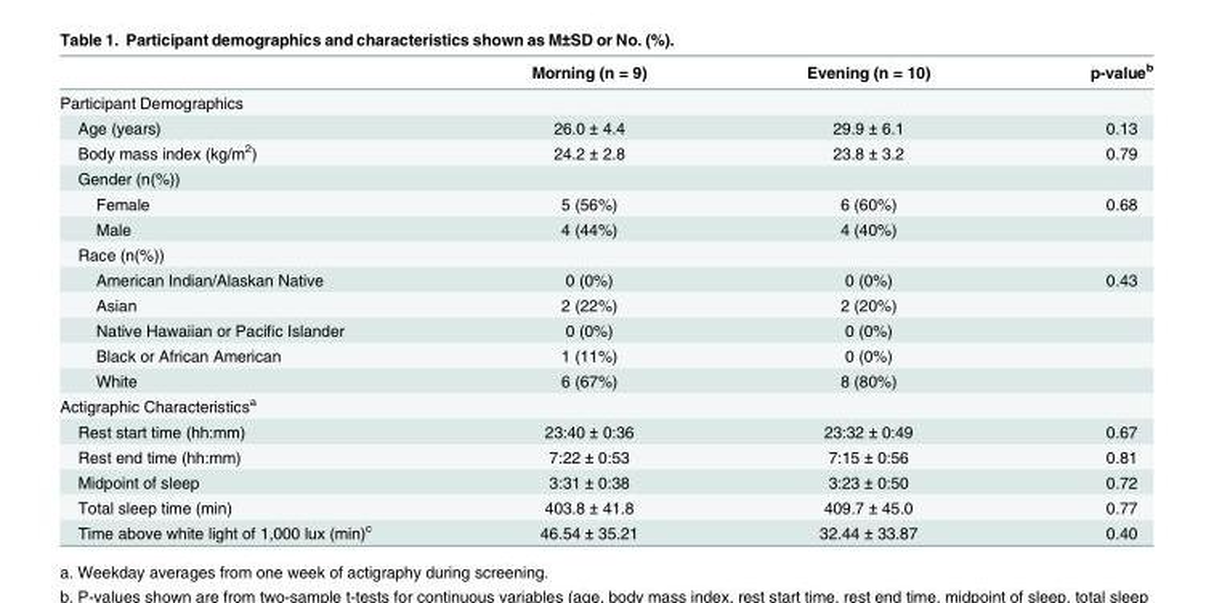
<table><thead><tr><td></td><td>Morning (n = 9)</td><td>Evening (n = 10)</td><td>p-value<sup>b</sup></td></tr></thead><tbody><tr><td colspan="4">Participant Demographics</td></tr><tr><td>Age (years)</td><td>26.0 ± 4.4</td><td>29.9 ± 6.1</td><td>0.13</td></tr><tr><td>Body mass index (kg/m<sup>2</sup>)</td><td>24.2 ± 2.8</td><td>23.8 ± 3.2</td><td>0.79</td></tr><tr><td colspan="4">Gender (n(%))</td></tr><tr><td>Female</td><td>5 (56%)</td><td>6 (60%)</td><td>0.68</td></tr><tr><td>Male</td><td>4 (44%)</td><td>4 (40%)</td><td></td></tr><tr><td colspan="4">Race (n(%))</td></tr><tr><td>American Indian/Alaskan Native</td><td>0 (0%)</td><td>0 (0%)</td><td>0.43</td></tr><tr><td>Asian</td><td>2 (22%)</td><td>2 (20%)</td><td></td></tr><tr><td>Native Hawaiian or Pacific Islander</td><td>0 (0%)</td><td>0 (0%)</td><td></td></tr><tr><td>Black or African American</td><td>1 (11%)</td><td>0 (0%)</td><td></td></tr><tr><td>White</td><td>6 (67%)</td><td>8 (80%)</td><td></td></tr><tr><td colspan="4">Actigraphic Characteristics<sup>a</sup></td></tr><tr><td>Rest start time (hh:mm)</td><td>23:40 ± 0:36</td><td>23:32 ± 0:49</td><td>0.67</td></tr><tr><td>Rest end time (hh:mm)</td><td>7:22 ± 0:53</td><td>7:15 ± 0:56</td><td>0.81</td></tr><tr><td>Midpoint of sleep</td><td>3:31 ± 0:38</td><td>3:23 ± 0:50</td><td>0.72</td></tr><tr><td>Total sleep time (min)</td><td>403.8 ± 41.8</td><td>409.7 ± 45.0</td><td>0.77</td></tr><tr><td>Time above white light of 1,000 lux (min)<sup>c</sup></td><td>46.54 ± 35.21</td><td>32.44 ± 33.87</td><td>0.40</td></tr></tbody></table>